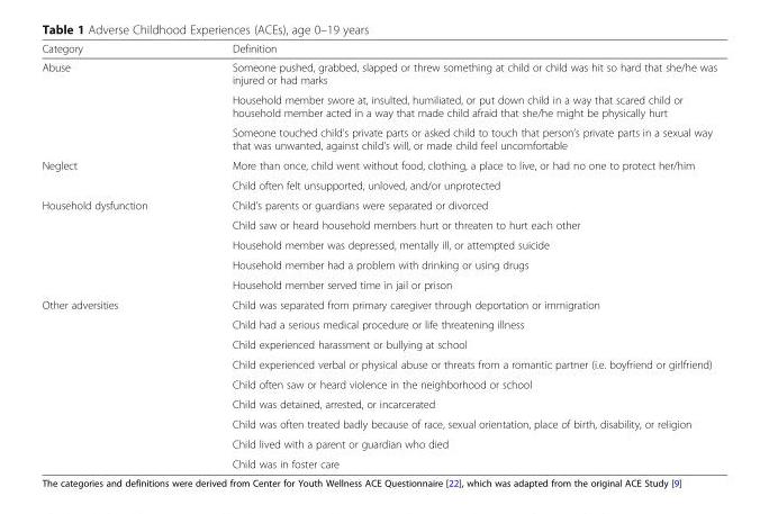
<table><thead><tr><td>Category</td><td>Definition</td></tr></thead><tbody><tr><td rowspan="3">Abuse</td><td>Someone pushed, grabbed, slapped or threw something at child or child was hit so hard that she/he was injured or had marks</td></tr><tr><td>Household member swore at, insulted, humiliated, or put down child in a way that scared child or household member acted in a way that made child afraid that she/he might be physically hurt</td></tr><tr><td>Someone touched child’s private parts or asked child to touch that person’s private parts in a sexual way that was unwanted, against child’s will, or made child feel uncomfortable</td></tr><tr><td rowspan="2">Neglect</td><td>More than once, child went without food, clothing, a place to live, or had no one to protect her/him</td></tr><tr><td>Child often felt unsupported, unloved, and/or unprotected</td></tr><tr><td rowspan="5">Household dysfunction</td><td>Child’s parents or guardians were separated or divorced</td></tr><tr><td>Child saw or heard household members hurt or threaten to hurt each other</td></tr><tr><td>Household member was depressed, mentally ill, or attempted suicide</td></tr><tr><td>Household member had a problem with drinking or using drugs</td></tr><tr><td>Household member served time in jail or prison</td></tr><tr><td rowspan="9">Other adversities</td><td>Child was separated from primary caregiver through deportation or immigration</td></tr><tr><td>Child had a serious medical procedure or life threatening illness</td></tr><tr><td>Child experienced harassment or bullying at school</td></tr><tr><td>Child experienced verbal or physical abuse or threats from a romantic partner (i.e. boyfriend or girlfriend)</td></tr><tr><td>Child often saw or heard violence in the neighborhood or school</td></tr><tr><td>Child was detained, arrested, or incarcerated</td></tr><tr><td>Child was often treated badly because of race, sexual orientation, place of birth, disability, or religion</td></tr><tr><td>Child lived with a parent or guardian who died</td></tr><tr><td>Child was in foster care</td></tr></tbody></table>